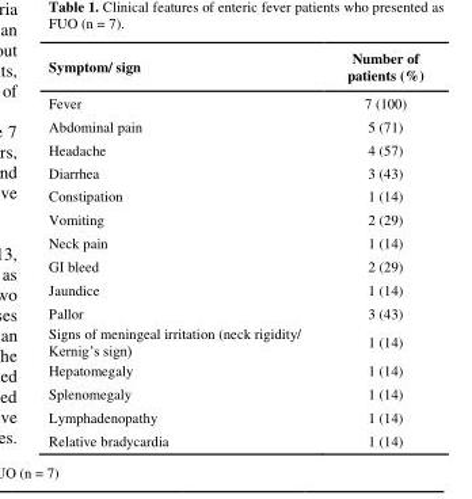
<table><thead><tr><td>Symptom/ sign</td><td>Number of patients (%)</td></tr></thead><tbody><tr><td>Fever</td><td>7 (100)</td></tr><tr><td>Abdominal pain</td><td>5 (71)</td></tr><tr><td>Headache</td><td>4 (57)</td></tr><tr><td>Diarrhea</td><td>3 (43)</td></tr><tr><td>Constipation</td><td>1 (14)</td></tr><tr><td>Vomiting</td><td>2 (29)</td></tr><tr><td>Neck pain</td><td>1 (14)</td></tr><tr><td>GI bleed</td><td>2 (29)</td></tr><tr><td>Jaundice</td><td>1 (14)</td></tr><tr><td>Pallor</td><td>3 (43)</td></tr><tr><td>Signs of meningeal irritation (neck rigidity/ Kernig’s sign)</td><td>1 (14)</td></tr><tr><td>Hepatomegaly</td><td>1 (14)</td></tr><tr><td>Splenomegaly</td><td>1 (14)</td></tr><tr><td>Lymphadenopathy</td><td>1 (14)</td></tr><tr><td>Relative bradycardia</td><td>1 (14)</td></tr></tbody></table>